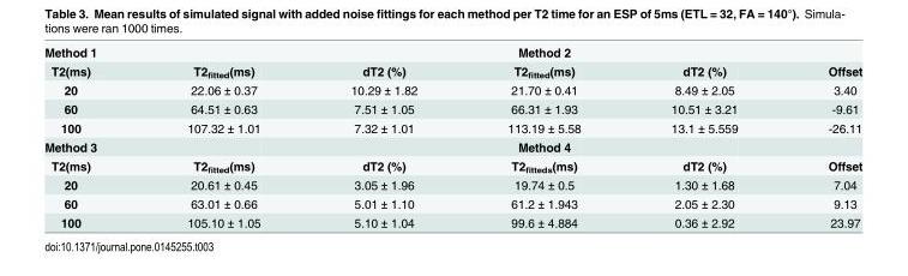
<table><tbody><tr><td>Method 1</td><td></td><td></td><td>Method 2</td><td colspan="2"></td></tr><tr><td>T2(ms)</td><td>T2<sub>fitted</sub>(ms)</td><td>dT2 (%)</td><td>T2<sub>fitted</sub>(ms)</td><td>dT2 (%)</td><td>Offset</td></tr><tr><td>20</td><td>22.06 ± 0.37</td><td>10.29 ± 1.82</td><td>21.70 ± 0.41</td><td>8.49 ± 2.05</td><td>3.40</td></tr><tr><td>60</td><td>64.51 ± 0.63</td><td>7.51 ± 1.05</td><td>66.31 ± 1.93</td><td>10.51 ± 3.21</td><td>-9.61</td></tr><tr><td>100</td><td>107.32 ± 1.01</td><td>7.32 ± 1.01</td><td>113.19 ± 5.58</td><td>13.1 ± 5.559</td><td>-26.11</td></tr><tr><td>Method 3</td><td></td><td></td><td>Method 4</td><td></td><td></td></tr><tr><td>T2(ms)</td><td>T2<sub>fitted</sub>(ms)</td><td>dT2 (%)</td><td>T2<sub>fitteds</sub>(ms)</td><td>dT2 (%)</td><td>Offset</td></tr><tr><td>20</td><td>20.61 ± 0.45</td><td>3.05 ± 1.96</td><td>19.74 ± 0.5</td><td>1.30 ± 1.68</td><td>7.04</td></tr><tr><td>60</td><td>63.01 ± 0.66</td><td>5.01 ± 1.10</td><td>61.2 ± 1.943</td><td>2.05 ± 2.30</td><td>9.13</td></tr><tr><td>100</td><td>105.10 ± 1.05</td><td>5.10 ± 1.04</td><td>99.6 ± 4.884</td><td>0.36 ± 2.92</td><td>23.97</td></tr></tbody></table>